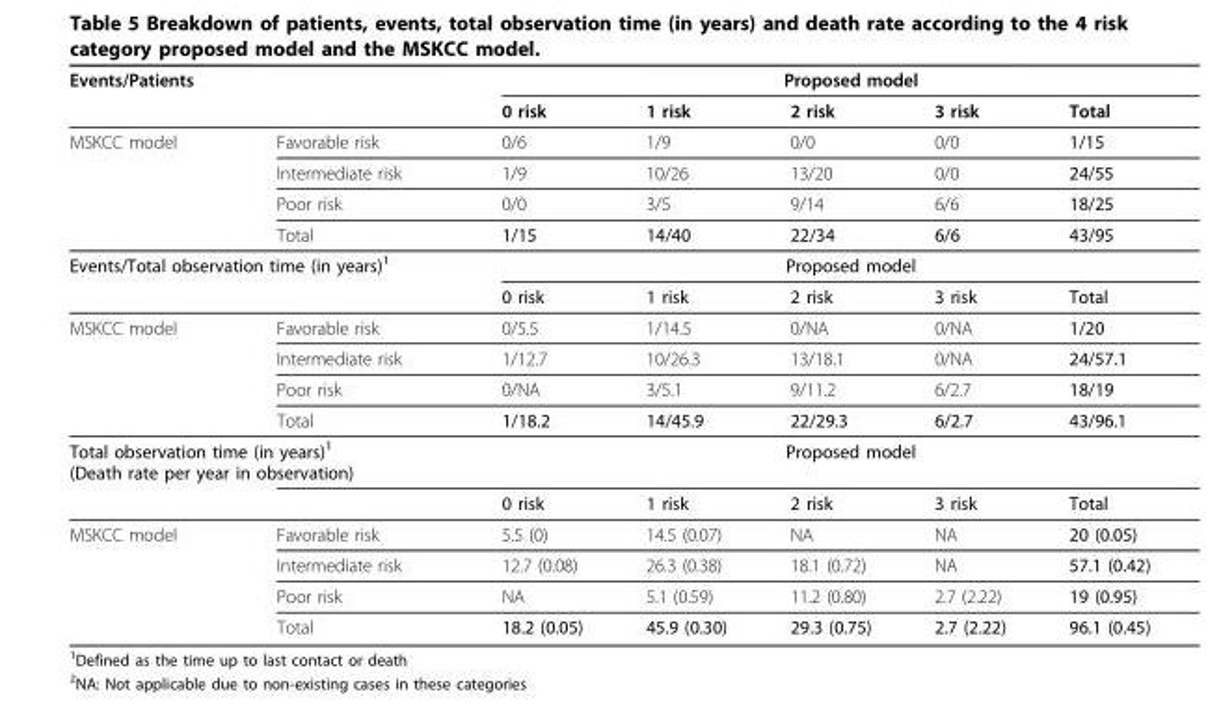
<table><thead><tr><td colspan="2">Events/Patients</td><td colspan="5">Proposed model</td></tr><tr><td></td><td></td><td>0 risk</td><td>1 risk</td><td>2 risk</td><td>3 risk</td><td>Total</td></tr></thead><tbody><tr><td rowspan="4">MSKCC model</td><td>Favorable risk</td><td>0/6</td><td>1/9</td><td>0/0</td><td>0/0</td><td>1/15</td></tr><tr><td>Intermediate risk</td><td>1/9</td><td>10/26</td><td>13/20</td><td>0/0</td><td>24/55</td></tr><tr><td>Poor risk</td><td>0/0</td><td>3/5</td><td>9/14</td><td>6/6</td><td>18/25</td></tr><tr><td>Total</td><td>1/15</td><td>14/40</td><td>22/34</td><td>6/6</td><td>43/95</td></tr><tr><td colspan="2">Events/Total observation time (in years)<sup>1</sup></td><td colspan="5">Proposed model</td></tr><tr><td></td><td></td><td>0 risk</td><td>1 risk</td><td>2 risk</td><td>3 risk</td><td>Total</td></tr><tr><td rowspan="4">MSKCC model</td><td>Favorable risk</td><td>0/5.5</td><td>1/14.5</td><td>0/NA</td><td>0/NA</td><td>1/20</td></tr><tr><td>Intermediate risk</td><td>1/12.7</td><td>10/26.3</td><td>13/18.1</td><td>0/NA</td><td>24/57.1</td></tr><tr><td>Poor risk</td><td>0/NA</td><td>3/5.1</td><td>9/11.2</td><td>6/2.7</td><td>18/19</td></tr><tr><td>Total</td><td>1/18.2</td><td>14/45.9</td><td>22/29.3</td><td>6/2.7</td><td>43/96.1</td></tr><tr><td colspan="2">Total observation time (in years)<sup>1</sup> (Death rate per year in observation)</td><td colspan="5">Proposed model</td></tr><tr><td></td><td></td><td>0 risk</td><td>1 risk</td><td>2 risk</td><td>3 risk</td><td>Total</td></tr><tr><td rowspan="4">MSKCC model</td><td>Favorable risk</td><td>5.5 (0)</td><td>14.5 (0.07)</td><td>NA</td><td>NA</td><td>20 (0.05)</td></tr><tr><td>Intermediate risk</td><td>12.7 (0.08)</td><td>26.3 (0.38)</td><td>18.1 (0.72)</td><td>NA</td><td>57.1 (0.42)</td></tr><tr><td>Poor risk</td><td>NA</td><td>5.1 (0.59)</td><td>11.2 (0.80)</td><td>2.7 (2.22)</td><td>19 (0.95)</td></tr><tr><td>Total</td><td>18.2 (0.05)</td><td>45.9 (0.30)</td><td>29.3 (0.75)</td><td>2.7 (2.22)</td><td>96.1 (0.45)</td></tr></tbody></table>